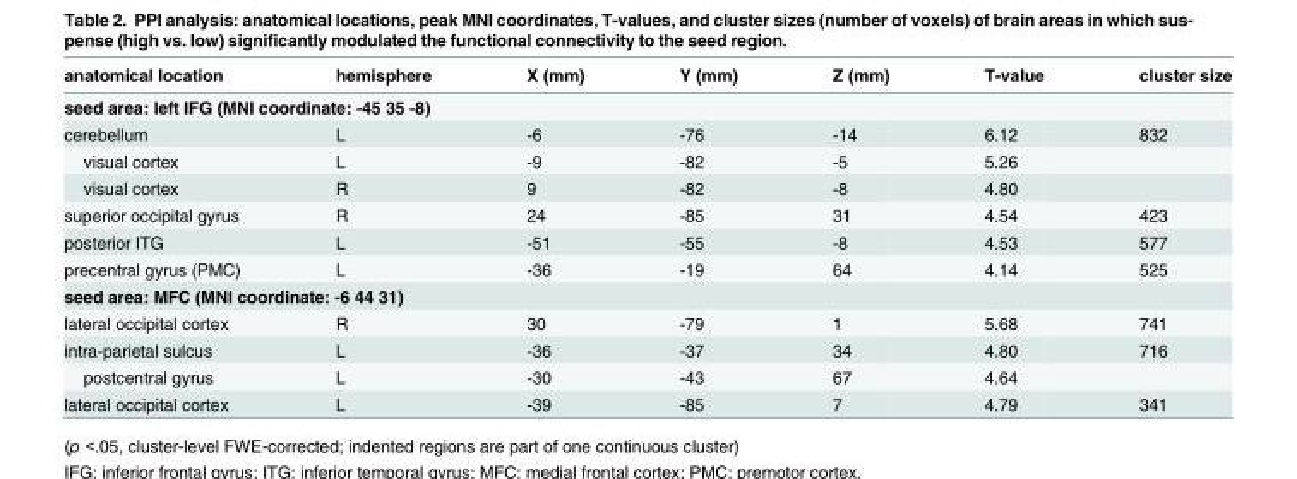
<table><thead><tr><td>anatomical location</td><td>hemisphere</td><td>X (mm)</td><td>Y (mm)</td><td>Z (mm)</td><td>T-value</td><td>cluster size</td></tr></thead><tbody><tr><td colspan="7">seed area: left IFG (MNI coordinate: -45 35 -8)</td></tr><tr><td>cerebellum</td><td>L</td><td>-6</td><td>-76</td><td>-14</td><td>6.12</td><td>832</td></tr><tr><td>visual cortex</td><td>L</td><td>-9</td><td>-82</td><td>-5</td><td>5.26</td><td></td></tr><tr><td>visual cortex</td><td>R</td><td>9</td><td>-82</td><td>-8</td><td>4.80</td><td></td></tr><tr><td>superior occipital gyrus</td><td>R</td><td>24</td><td>-85</td><td>31</td><td>4.54</td><td>423</td></tr><tr><td>posterior ITG</td><td>L</td><td>-51</td><td>-55</td><td>-8</td><td>4.53</td><td>577</td></tr><tr><td>precentral gyrus (PMC)</td><td>L</td><td>-36</td><td>-19</td><td>64</td><td>4.14</td><td>525</td></tr><tr><td colspan="7">seed area: MFC (MNI coordinate: -6 44 31)</td></tr><tr><td>lateral occipital cortex</td><td>R</td><td>30</td><td>-79</td><td>1</td><td>5.68</td><td>741</td></tr><tr><td>intra-parietal sulcus</td><td>L</td><td>-36</td><td>-37</td><td>34</td><td>4.80</td><td>716</td></tr><tr><td>postcentral gyrus</td><td>L</td><td>-30</td><td>-43</td><td>67</td><td>4.64</td><td></td></tr><tr><td>lateral occipital cortex</td><td>L</td><td>-39</td><td>-85</td><td>7</td><td>4.79</td><td>341</td></tr></tbody></table>